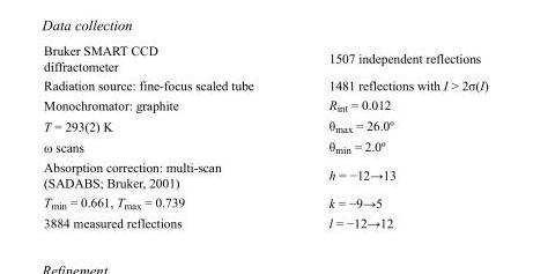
<table><tbody><tr><td>Bruker SMART CCD diffractometer</td><td>1507 independent reflections</td></tr><tr><td>Radiation source: fine-focus sealed tube</td><td>1481 reflections with I &gt; 2σ(I)</td></tr><tr><td>Monochromator: graphite</td><td>R<sub>int</sub> = 0.012</td></tr><tr><td>T = 293(2) K</td><td>θ<sub>max</sub> = 26.0º</td></tr><tr><td>ω scans</td><td>θ<sub>min</sub> = 2.0º</td></tr><tr><td>Absorption correction: multi-scan (SADABS; Bruker, 2001)</td><td>h = −12→13</td></tr><tr><td>T<sub>min</sub> = 0.661, T<sub>max</sub> = 0.739</td><td>k = −9→5</td></tr><tr><td>3884 measured reflections</td><td>l = −12→12</td></tr></tbody></table>